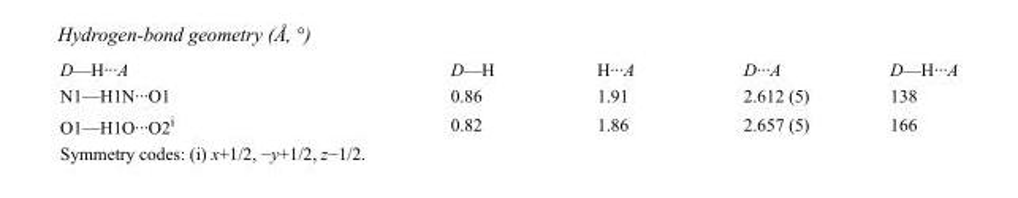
<table><tbody><tr><td>D—H···A</td><td>D—H</td><td>H···A</td><td>D···A</td><td>D—H···A</td></tr><tr><td>N1—H1N···O1</td><td>0.86</td><td>1.91</td><td>2.612 (5)</td><td>138</td></tr><tr><td>O1—H1O···O2<sup>i</sup></td><td>0.82</td><td>1.86</td><td>2.657 (5)</td><td>166</td></tr></tbody></table>